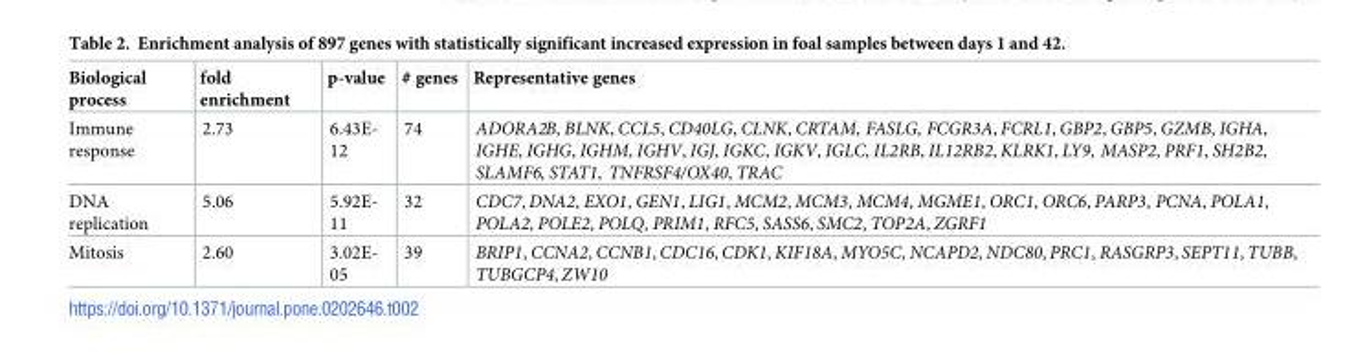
<table><thead><tr><td>Biological process</td><td>fold enrichment</td><td>p-value</td><td># genes</td><td>Representative genes</td></tr></thead><tbody><tr><td>Immune response</td><td>2.73</td><td>6.43E- 12</td><td>74</td><td>ADORA2B, BLNK, CCL5, CD40LG, CLNK, CRTAM, FASLG, FCGR3A, FCRL1, GBP2, GBP5, GZMB, IGHA, IGHE, IGHG, IGHM, IGHV, IGJ, IGKC, IGKV, IGLC, IL2RB, IL12RB2, KLRK1, LY9, MASP2, PRF1, SH2B2, SLAMF6, STAT1, TNFRSF4/OX40, TRAC</td></tr><tr><td>DNA replication</td><td>5.06</td><td>5.92E- 11</td><td>32</td><td>CDC7, DNA2, EXO1, GEN1, LIG1, MCM2, MCM3, MCM4, MGME1, ORC1, ORC6, PARP3, PCNA, POLA1, POLA2, POLE2, POLQ, PRIM1, RFC5, SASS6, SMC2, TOP2A, ZGRF1</td></tr><tr><td>Mitosis</td><td>2.60</td><td>3.02E- 05</td><td>39</td><td>BRIP1, CCNA2, CCNB1, CDC16, CDK1, KIF18A, MYO5C, NCAPD2, NDC80, PRC1, RASGRP3, SEPT11, TUBB, TUBGCP4, ZW10</td></tr></tbody></table>